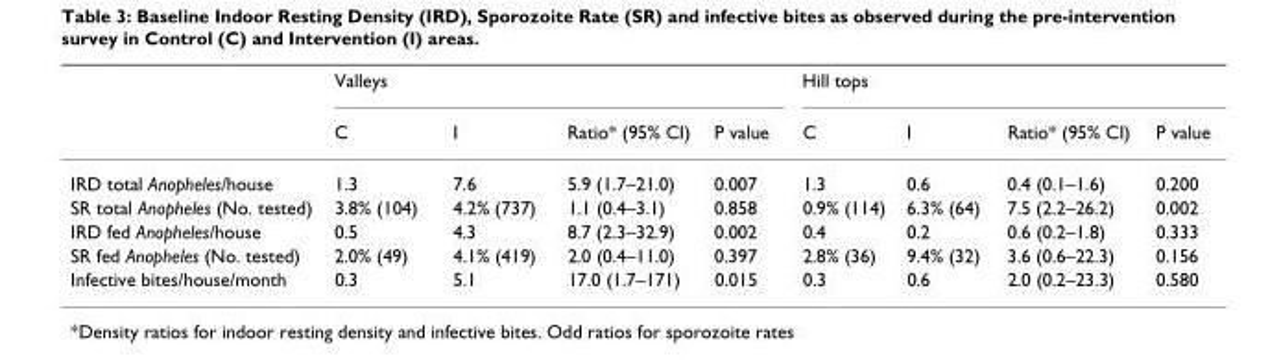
<table><thead><tr><td rowspan="2"></td><td colspan="4">Valleys</td><td colspan="4">Hill tops</td></tr><tr><td>C</td><td>I</td><td>Ratio* (95% CI)</td><td>P value</td><td>C</td><td>I</td><td>Ratio* (95% CI)</td><td>P value</td></tr></thead><tbody><tr><td>IRD total Anopheles/house</td><td>1.3</td><td>7.6</td><td>5.9 (1.7–21.0)</td><td>0.007</td><td>1.3</td><td>0.6</td><td>0.4 (0.1–1.6)</td><td>0.200</td></tr><tr><td>SR total Anopheles (No. tested)</td><td>3.8% (104)</td><td>4.2% (737)</td><td>1.1 (0.4–3.1)</td><td>0.858</td><td>0.9% (114)</td><td>6.3% (64)</td><td>7.5 (2.2–26.2)</td><td>0.002</td></tr><tr><td>IRD fed Anopheles/house</td><td>0.5</td><td>4.3</td><td>8.7 (2.3–32.9)</td><td>0.002</td><td>0.4</td><td>0.2</td><td>0.6 (0.2–1.8)</td><td>0.333</td></tr><tr><td>SR fed Anopheles (No. tested)</td><td>2.0% (49)</td><td>4.1% (419)</td><td>2.0 (0.4–11.0)</td><td>0.397</td><td>2.8% (36)</td><td>9.4% (32)</td><td>3.6 (0.6–22.3)</td><td>0.156</td></tr><tr><td>Infective bites/house/month</td><td>0.3</td><td>5.1</td><td>17.0 (1.7–171)</td><td>0.015</td><td>0.3</td><td>0.6</td><td>2.0 (0.2–23.3)</td><td>0.580</td></tr></tbody></table>